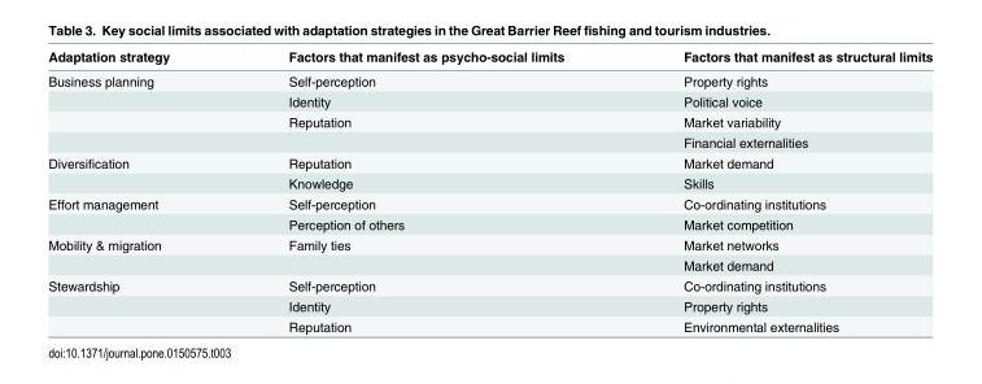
<table><thead><tr><td>Adaptation strategy</td><td>Factors that manifest as psycho-social limits</td><td>Factors that manifest as structural limits</td></tr></thead><tbody><tr><td rowspan="4">Business planning</td><td>Self-perception</td><td>Property rights</td></tr><tr><td>Identity</td><td>Political voice</td></tr><tr><td>Reputation</td><td>Market variability</td></tr><tr><td></td><td>Financial externalities</td></tr><tr><td rowspan="2">Diversification</td><td>Reputation</td><td>Market demand</td></tr><tr><td>Knowledge</td><td>Skills</td></tr><tr><td rowspan="2">Effort management</td><td>Self-perception</td><td>Co-ordinating institutions</td></tr><tr><td>Perception of others</td><td>Market competition</td></tr><tr><td rowspan="2">Mobility &amp; migration</td><td>Family ties</td><td>Market networks</td></tr><tr><td></td><td>Market demand</td></tr><tr><td rowspan="3">Stewardship</td><td>Self-perception</td><td>Co-ordinating institutions</td></tr><tr><td>Identity</td><td>Property rights</td></tr><tr><td>Reputation</td><td>Environmental externalities</td></tr></tbody></table>